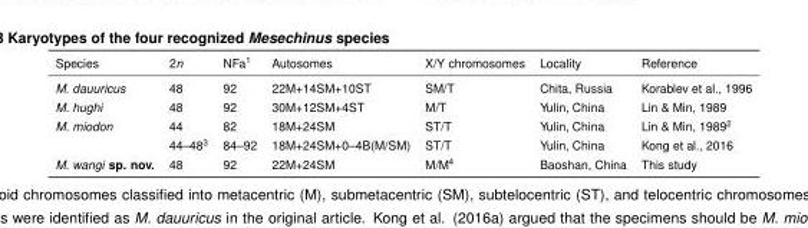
<table><thead><tr><td>Species</td><td>2n</td><td>NFa<sup>1</sup></td><td>Autosomes</td><td>X/Y chromosomes</td><td>Locality</td><td>Reference</td></tr></thead><tbody><tr><td>M. dauuricus</td><td>48</td><td>92</td><td>22M+14SM+10ST</td><td>SM/T</td><td>Chita, Russia</td><td>Korablev et al., 1996</td></tr><tr><td>M. hughi</td><td>48</td><td>92</td><td>30M+12SM+4ST</td><td>M/T</td><td>Yulin, China</td><td>Lin &amp; Min, 1989</td></tr><tr><td rowspan="2">M. miodon</td><td>44</td><td>82</td><td>18M+24SM</td><td>ST/T</td><td>Yulin, China</td><td>Lin &amp; Min, 1989<sup>2</sup></td></tr><tr><td>44–48<sup>3</sup></td><td>84–92</td><td>18M+24SM+0–4B(M/SM)</td><td>ST/T</td><td>Yulin, China</td><td>Kong et al., 2016</td></tr><tr><td>M. wangi sp. nov.</td><td>48</td><td>92</td><td>22M+24SM</td><td>M/M<sup>4</sup></td><td>Baoshan, China</td><td>This study</td></tr></tbody></table>